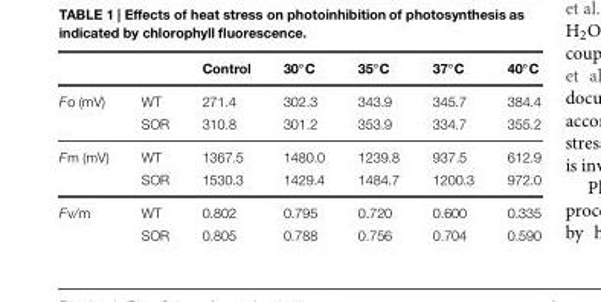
<table><thead><tr><td></td><td></td><td>Control</td><td>30◦C</td><td>35◦C</td><td>37◦C</td><td>40◦C</td></tr></thead><tbody><tr><td rowspan="2">Fo (mV)</td><td>WT</td><td>271.4</td><td>302.3</td><td>343.9</td><td>345.7</td><td>384.4</td></tr><tr><td>SOR</td><td>310.8</td><td>301.2</td><td>353.9</td><td>334.7</td><td>355.2</td></tr><tr><td rowspan="2">Fm (mV)</td><td>WT</td><td>1367.5</td><td>1480.0</td><td>1239.8</td><td>937.5</td><td>612.9</td></tr><tr><td>SOR</td><td>1530.3</td><td>1429.4</td><td>1484.7</td><td>1200.3</td><td>972.0</td></tr><tr><td rowspan="2">Fv/m</td><td>WT</td><td>0.802</td><td>0.795</td><td>0.720</td><td>0.600</td><td>0.335</td></tr><tr><td>SOR</td><td>0.805</td><td>0.788</td><td>0.756</td><td>0.704</td><td>0.590</td></tr></tbody></table>